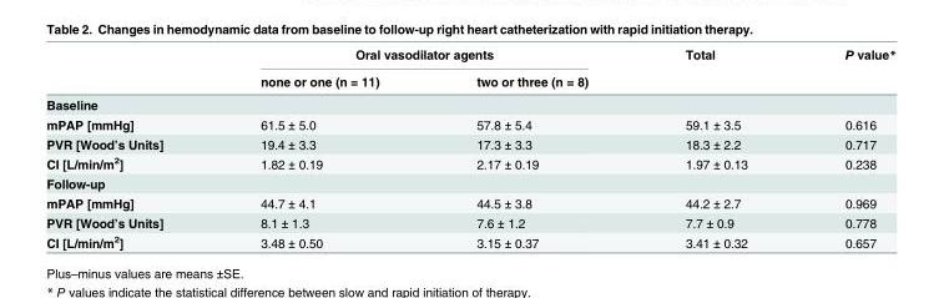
<table><thead><tr><td rowspan="2"></td><td colspan="2">Oral vasodilator agents</td><td rowspan="2">Total</td><td rowspan="2">P value*</td></tr><tr><td>none or one (n = 11)</td><td>two or three (n = 8)</td></tr></thead><tbody><tr><td colspan="5">Baseline</td></tr><tr><td>mPAP [mmHg]</td><td>61.5 ± 5.0</td><td>57.8 ± 5.4</td><td>59.1 ± 3.5</td><td>0.616</td></tr><tr><td>PVR [Wood’s Units]</td><td>19.4 ± 3.3</td><td>17.3 ± 3.3</td><td>18.3 ± 2.2</td><td>0.717</td></tr><tr><td>CI [L/min/m<sup>2</sup>]</td><td>1.82 ± 0.19</td><td>2.17 ± 0.19</td><td>1.97 ± 0.13</td><td>0.238</td></tr><tr><td colspan="5">Follow-up</td></tr><tr><td>mPAP [mmHg]</td><td>44.7 ± 4.1</td><td>44.5 ± 3.8</td><td>44.2 ± 2.7</td><td>0.969</td></tr><tr><td>PVR [Wood’s Units]</td><td>8.1 ± 1.3</td><td>7.6 ± 1.2</td><td>7.7 ± 0.9</td><td>0.778</td></tr><tr><td>CI [L/min/m<sup>2</sup>]</td><td>3.48 ± 0.50</td><td>3.15 ± 0.37</td><td>3.41 ± 0.32</td><td>0.657</td></tr></tbody></table>